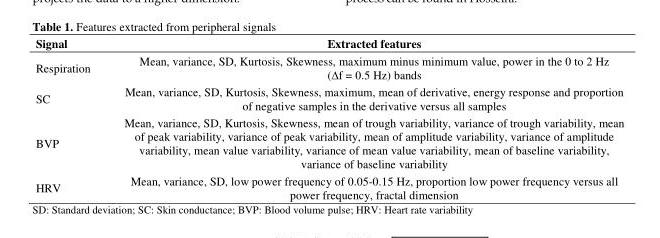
<table><thead><tr><td>Signal</td><td>Extracted features</td></tr></thead><tbody><tr><td>Respiration</td><td>Mean, variance, SD, Kurtosis, Skewness, maximum minus minimum value, power in the 0 to 2 Hz (∆f = 0.5 Hz) bands</td></tr><tr><td>SC</td><td>Mean, variance, SD, Kurtosis, Skewness, maximum, mean of derivative, energy response and proportion of negative samples in the derivative versus all samples</td></tr><tr><td>BVP</td><td>Mean, variance, SD, Kurtosis, Skewness, mean of trough variability, variance of trough variability, mean of peak variability, variance of peak variability, mean of amplitude variability, variance of amplitude variability, mean value variability, variance of mean value variability, mean of baseline variability, variance of baseline variability</td></tr><tr><td>HRV</td><td>Mean, variance, SD, low power frequency of 0.05-0.15 Hz, proportion low power frequency versus all power frequency, fractal dimension</td></tr></tbody></table>